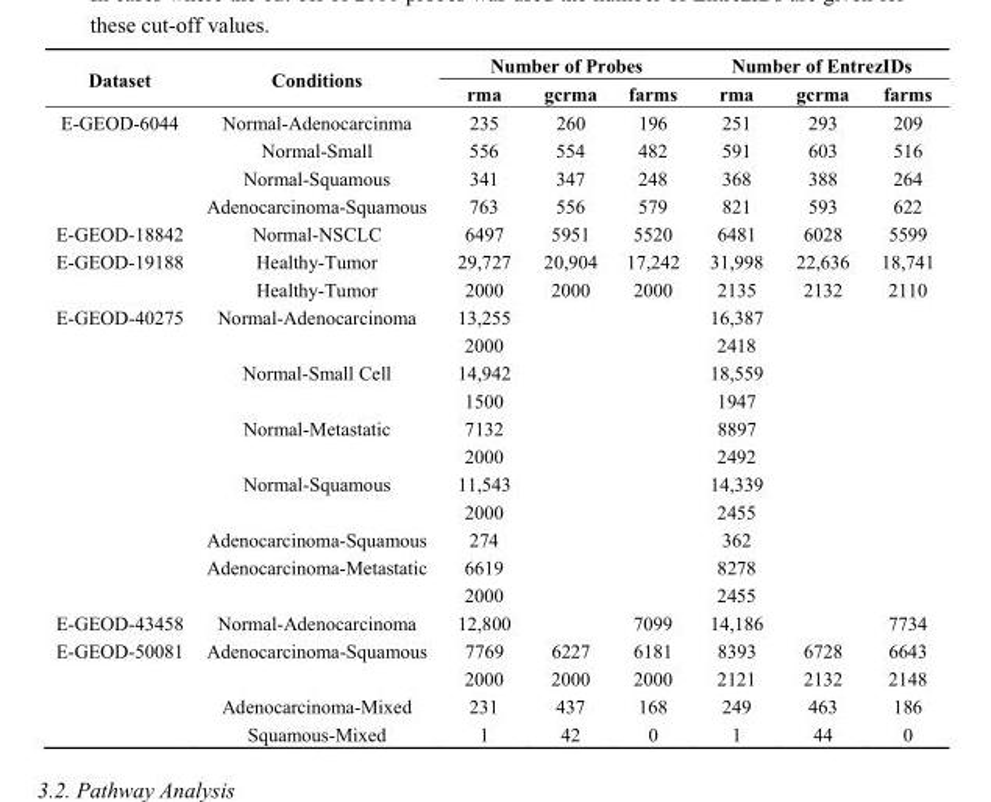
<table><thead><tr><td rowspan="2">Dataset</td><td rowspan="2">Conditions</td><td colspan="3">Number of Probes</td><td colspan="3">Number of EntrezIDs</td></tr><tr><td>rma</td><td>gcrma</td><td>farms</td><td>rma</td><td>gcrma</td><td>farms</td></tr></thead><tbody><tr><td rowspan="4">E-GEOD-6044</td><td>Normal-Adenocarcinma</td><td>235</td><td>260</td><td>196</td><td>251</td><td>293</td><td>209</td></tr><tr><td>Normal-Small</td><td>556</td><td>554</td><td>482</td><td>591</td><td>603</td><td>516</td></tr><tr><td>Normal-Squamous</td><td>341</td><td>347</td><td>248</td><td>368</td><td>388</td><td>264</td></tr><tr><td>Adenocarcinoma-Squamous</td><td>763</td><td>556</td><td>579</td><td>821</td><td>593</td><td>622</td></tr><tr><td>E-GEOD-18842</td><td>Normal-NSCLC</td><td>6497</td><td>5951</td><td>5520</td><td>6481</td><td>6028</td><td>5599</td></tr><tr><td rowspan="2">E-GEOD-19188</td><td>Healthy-Tumor</td><td>29,727</td><td>20,904</td><td>17,242</td><td>31,998</td><td>22,636</td><td>18,741</td></tr><tr><td>Healthy-Tumor</td><td>2000</td><td>2000</td><td>2000</td><td>2135</td><td>2132</td><td>2110</td></tr><tr><td rowspan="11">E-GEOD-40275</td><td>Normal-Adenocarcinoma</td><td>13,255</td><td></td><td></td><td>16,387</td><td></td><td></td></tr><tr><td></td><td>2000</td><td></td><td></td><td>2418</td><td></td><td></td></tr><tr><td>Normal-Small Cell</td><td>14,942</td><td></td><td></td><td>18,559</td><td></td><td></td></tr><tr><td></td><td>1500</td><td></td><td></td><td>1947</td><td></td><td></td></tr><tr><td>Normal-Metastatic</td><td>7132</td><td></td><td></td><td>8897</td><td></td><td></td></tr><tr><td></td><td>2000</td><td></td><td></td><td>2492</td><td></td><td></td></tr><tr><td>Normal-Squamous</td><td>11,543</td><td></td><td></td><td>14,339</td><td></td><td></td></tr><tr><td></td><td>2000</td><td></td><td></td><td>2455</td><td></td><td></td></tr><tr><td>Adenocarcinoma-Squamous</td><td>274</td><td></td><td></td><td>362</td><td></td><td></td></tr><tr><td>Adenocarcinoma-Metastatic</td><td>6619</td><td></td><td></td><td>8278</td><td></td><td></td></tr><tr><td></td><td>2000</td><td></td><td></td><td>2455</td><td></td><td></td></tr><tr><td>E-GEOD-43458</td><td>Normal-Adenocarcinoma</td><td>12,800</td><td></td><td>7099</td><td>14,186</td><td></td><td>7734</td></tr><tr><td rowspan="4">E-GEOD-50081</td><td>Adenocarcinoma-Squamous</td><td>7769</td><td>6227</td><td>6181</td><td>8393</td><td>6728</td><td>6643</td></tr><tr><td></td><td>2000</td><td>2000</td><td>2000</td><td>2121</td><td>2132</td><td>2148</td></tr><tr><td>Adenocarcinoma-Mixed</td><td>231</td><td>437</td><td>168</td><td>249</td><td>463</td><td>186</td></tr><tr><td>Squamous-Mixed</td><td>1</td><td>42</td><td>0</td><td>1</td><td>44</td><td>0</td></tr></tbody></table>